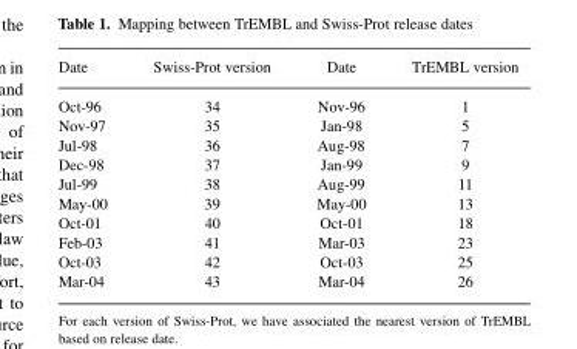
<table><thead><tr><td>Date</td><td>Swiss-Prot version</td><td>Date</td><td>TrEMBL version</td></tr></thead><tbody><tr><td>Oct-96</td><td>34</td><td>Nov-96</td><td>1</td></tr><tr><td>Nov-97</td><td>35</td><td>Jan-98</td><td>5</td></tr><tr><td>Jul-98</td><td>36</td><td>Aug-98</td><td>7</td></tr><tr><td>Dec-98</td><td>37</td><td>Jan-99</td><td>9</td></tr><tr><td>Jul-99</td><td>38</td><td>Aug-99</td><td>11</td></tr><tr><td>May-00</td><td>39</td><td>May-00</td><td>13</td></tr><tr><td>Oct-01</td><td>40</td><td>Oct-01</td><td>18</td></tr><tr><td>Feb-03</td><td>41</td><td>Mar-03</td><td>23</td></tr><tr><td>Oct-03</td><td>42</td><td>Oct-03</td><td>25</td></tr><tr><td>Mar-04</td><td>43</td><td>Mar-04</td><td>26</td></tr></tbody></table>